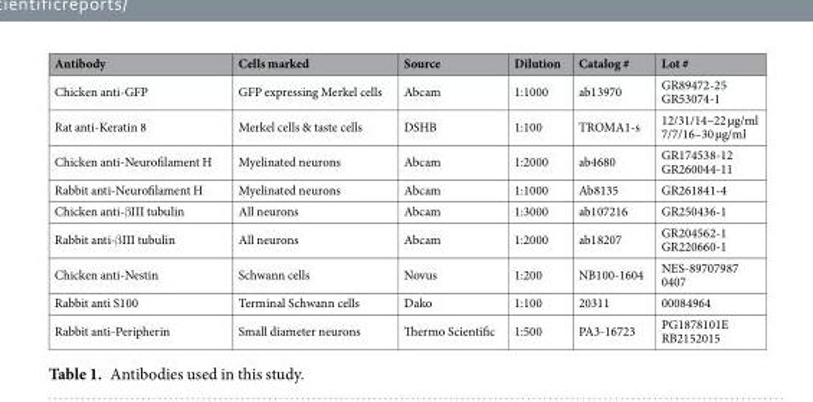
<table><thead><tr><td>Antibody</td><td>Cells marked</td><td>Source</td><td>Dilution</td><td>Catalog #</td><td>Lot #</td></tr></thead><tbody><tr><td>Chicken anti-GFP</td><td>GFP expressing Merkel cells</td><td>Abcam</td><td>1:1000</td><td>ab13970</td><td>GR89472-25 GR53074-1</td></tr><tr><td>Rat anti-Keratin 8</td><td>Merkel cells &amp; taste cells</td><td>DSHB</td><td>1:100</td><td>TROMA1-s</td><td>12/31/14–22 µg/ml 7/7/16–30 µg/ml</td></tr><tr><td>Chicken anti-Neurofilament H</td><td>Myelinated neurons</td><td>Abcam</td><td>1:2000</td><td>ab4680</td><td>GR174538-12 GR260044-11</td></tr><tr><td>Rabbit anti-Neurofilament H</td><td>Myelinated neurons</td><td>Abcam</td><td>1:1000</td><td>Ab8135</td><td>GR261841-4</td></tr><tr><td>Chicken anti-βIII tubulin</td><td>All neurons</td><td>Abcam</td><td>1:3000</td><td>ab107216</td><td>GR250436-1</td></tr><tr><td>Rabbit anti-βIII tubulin</td><td>All neurons</td><td>Abcam</td><td>1:2000</td><td>ab18207</td><td>GR204562-1 GR220660-1</td></tr><tr><td>Chicken anti-Nestin</td><td>Schwann cells</td><td>Novus</td><td>1:200</td><td>NB100-1604</td><td>NES-89707987 0407</td></tr><tr><td>Rabbit anti S100</td><td>Terminal Schwann cells</td><td>Dako</td><td>1:100</td><td>20311</td><td>00084964</td></tr><tr><td>Rabbit anti-Peripherin</td><td>Small diameter neurons</td><td>Thermo Scientific</td><td>1:500</td><td>PA3-16723</td><td>PG1878101E RB2152015</td></tr></tbody></table>